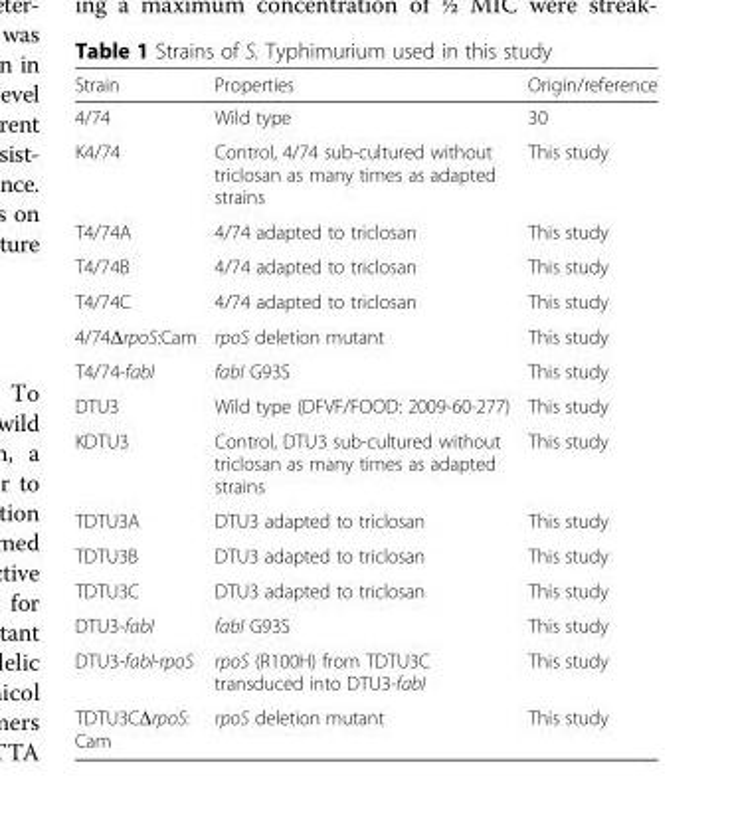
<table><thead><tr><td>Strain</td><td>Properties</td><td>Origin/reference</td></tr></thead><tbody><tr><td>4/74</td><td>Wild type</td><td>30</td></tr><tr><td>K4/74</td><td>Control, 4/74 sub-cultured without triclosan as many times as adapted strains</td><td>This study</td></tr><tr><td>T4/74A</td><td>4/74 adapted to triclosan</td><td>This study</td></tr><tr><td>T4/74B</td><td>4/74 adapted to triclosan</td><td>This study</td></tr><tr><td>T4/74C</td><td>4/74 adapted to triclosan</td><td>This study</td></tr><tr><td>4/74ΔrpoS:Cam</td><td>rpoS deletion mutant</td><td>This study</td></tr><tr><td>T4/74-fabI</td><td>fabI G93S</td><td>This study</td></tr><tr><td>DTU3</td><td>Wild type (DFVF/FOOD: 2009-60-277)</td><td>This study</td></tr><tr><td>KDTU3</td><td>Control, DTU3 sub-cultured without triclosan as many times as adapted strains</td><td>This study</td></tr><tr><td>TDTU3A</td><td>DTU3 adapted to triclosan</td><td>This study</td></tr><tr><td>TDTU3B</td><td>DTU3 adapted to triclosan</td><td>This study</td></tr><tr><td>TDTU3C</td><td>DTU3 adapted to triclosan</td><td>This study</td></tr><tr><td>DTU3-fabI</td><td>fabI G93S</td><td>This study</td></tr><tr><td>DTU3-fabI-rpoS</td><td>rpoS (R100H) from TDTU3C transduced into DTU3-fabI</td><td>This study</td></tr><tr><td>TDTU3CΔrpoS: Cam</td><td>rpoS deletion mutant</td><td>This study</td></tr></tbody></table>